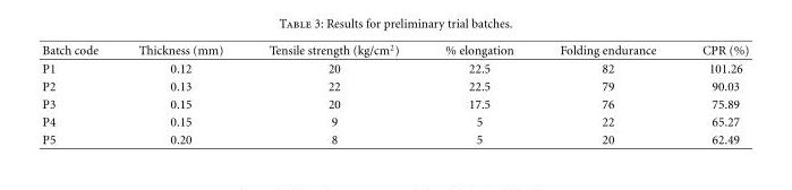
<table><thead><tr><td>Batch code</td><td>Thickness (mm)</td><td>Tensile strength (kg/cm<sup>2</sup>)</td><td>% elongation</td><td>Folding endurance</td><td>CPR (%)</td></tr></thead><tbody><tr><td>P1</td><td>0.12</td><td>20</td><td>22.5</td><td>82</td><td>101.26</td></tr><tr><td>P2</td><td>0.13</td><td>22</td><td>22.5</td><td>79</td><td>90.03</td></tr><tr><td>P3</td><td>0.15</td><td>20</td><td>17.5</td><td>76</td><td>75.89</td></tr><tr><td>P4</td><td>0.15</td><td>9</td><td>5</td><td>22</td><td>65.27</td></tr><tr><td>P5</td><td>0.20</td><td>8</td><td>5</td><td>20</td><td>62.49</td></tr></tbody></table>